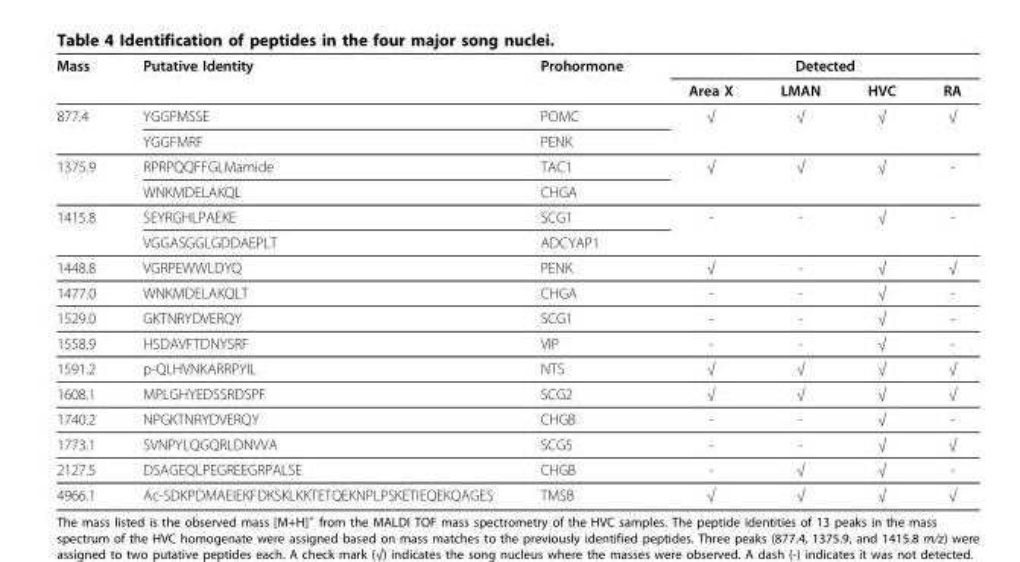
<table><thead><tr><td rowspan="2">Mass</td><td rowspan="2">Putative Identity</td><td rowspan="2">Prohormone</td><td colspan="4">Detected</td></tr><tr><td>Area X</td><td>LMAN</td><td>HVC</td><td>RA</td></tr></thead><tbody><tr><td rowspan="2">877.4</td><td>YGGFMSSE</td><td>POMC</td><td>√</td><td>√</td><td>√</td><td>√</td></tr><tr><td>YGGFMRF</td><td>PENK</td><td></td><td></td><td></td><td></td></tr><tr><td rowspan="2">1375.9</td><td>RPRPQQFFGLMamide</td><td>TAC1</td><td>√</td><td>√</td><td>√</td><td>-</td></tr><tr><td>WNKMDELAKQL</td><td>CHGA</td><td></td><td></td><td></td><td></td></tr><tr><td rowspan="2">1415.8</td><td>SEYRGHLPAEKE</td><td>SCG1</td><td>-</td><td>-</td><td>√</td><td>-</td></tr><tr><td>VGGASGGLGDDAEPLT</td><td>ADCYAP1</td><td></td><td></td><td></td><td></td></tr><tr><td>1448.8</td><td>VGRPEWWLDYQ</td><td>PENK</td><td>√</td><td>-</td><td>√</td><td>√</td></tr><tr><td>1477.0</td><td>WNKMDELAKQLT</td><td>CHGA</td><td>-</td><td>-</td><td>√</td><td>-</td></tr><tr><td>1529.0</td><td>GKTNRYDVERQY</td><td>SCG1</td><td>-</td><td>-</td><td>√</td><td>-</td></tr><tr><td>1558.9</td><td>HSDAVFTDNYSRF</td><td>VIP</td><td>-</td><td>-</td><td>√</td><td>-</td></tr><tr><td>1591.2</td><td>p-QLHVNKARRPYIL</td><td>NTS</td><td>√</td><td>√</td><td>√</td><td>√</td></tr><tr><td>1608.1</td><td>MPLGHYEDSSRDSPF</td><td>SCG2</td><td>√</td><td>√</td><td>√</td><td>√</td></tr><tr><td>1740.2</td><td>NPGKTNRYDVERQY</td><td>CHGB</td><td>-</td><td>-</td><td>√</td><td>-</td></tr><tr><td>1773.1</td><td>SVNPYLQGQRLDNVVA</td><td>SCG5</td><td>-</td><td>-</td><td>√</td><td>√</td></tr><tr><td>2127.5</td><td>DSAGEQLPEGREEGRPALSE</td><td>CHGB</td><td>-</td><td>√</td><td>√</td><td>-</td></tr><tr><td>4966.1</td><td>Ac-SDKPDMAEIEKFDKSKLKKTETQEKNPLPSKETIEQEKQAGES</td><td>TMSB</td><td>√</td><td>√</td><td>√</td><td>√</td></tr></tbody></table>